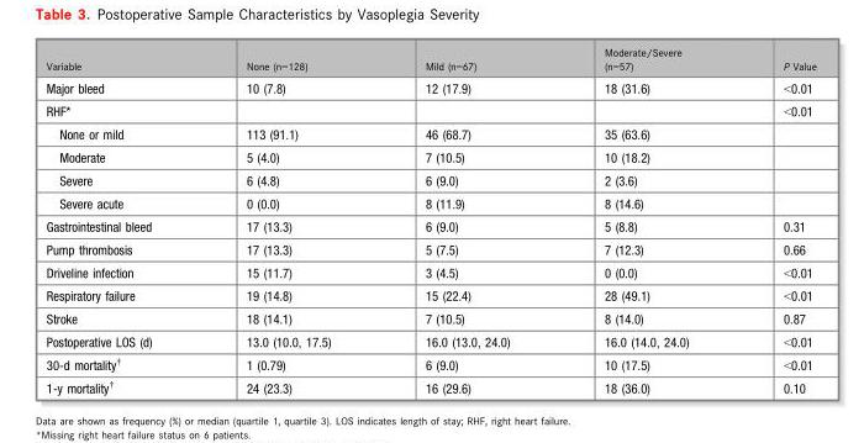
<table><thead><tr><td>Variable</td><td>None (n=128)</td><td>Mild (n=67)</td><td>Moderate/Severe (n=57)</td><td>P Value</td></tr></thead><tbody><tr><td>Major bleed</td><td>10 (7.8)</td><td>12 (17.9)</td><td>18 (31.6)</td><td>&lt;0.01</td></tr><tr><td>RHF*</td><td></td><td></td><td></td><td>&lt;0.01</td></tr><tr><td>None or mild</td><td>113 (91.1)</td><td>46 (68.7)</td><td>35 (63.6)</td><td></td></tr><tr><td>Moderate</td><td>5 (4.0)</td><td>7 (10.5)</td><td>10 (18.2)</td><td></td></tr><tr><td>Severe</td><td>6 (4.8)</td><td>6 (9.0)</td><td>2 (3.6)</td><td></td></tr><tr><td>Severe acute</td><td>0 (0.0)</td><td>8 (11.9)</td><td>8 (14.6)</td><td></td></tr><tr><td>Gastrointestinal bleed</td><td>17 (13.3)</td><td>6 (9.0)</td><td>5 (8.8)</td><td>0.31</td></tr><tr><td>Pump thrombosis</td><td>17 (13.3)</td><td>5 (7.5)</td><td>7 (12.3)</td><td>0.66</td></tr><tr><td>Driveline infection</td><td>15 (11.7)</td><td>3 (4.5)</td><td>0 (0.0)</td><td>&lt;0.01</td></tr><tr><td>Respiratory failure</td><td>19 (14.8)</td><td>15 (22.4)</td><td>28 (49.1)</td><td>&lt;0.01</td></tr><tr><td>Stroke</td><td>18 (14.1)</td><td>7 (10.5)</td><td>8 (14.0)</td><td>0.87</td></tr><tr><td>Postoperative LOS (d)</td><td>13.0 (10.0, 17.5)</td><td>16.0 (13.0, 24.0)</td><td>16.0 (14.0, 24.0)</td><td>&lt;0.01</td></tr><tr><td>30-d mortality†</td><td>1 (0.79)</td><td>6 (9.0)</td><td>10 (17.5)</td><td>&lt;0.01</td></tr><tr><td>1-y mortality†</td><td>24 (23.3)</td><td>16 (29.6)</td><td>18 (36.0)</td><td>0.10</td></tr></tbody></table>